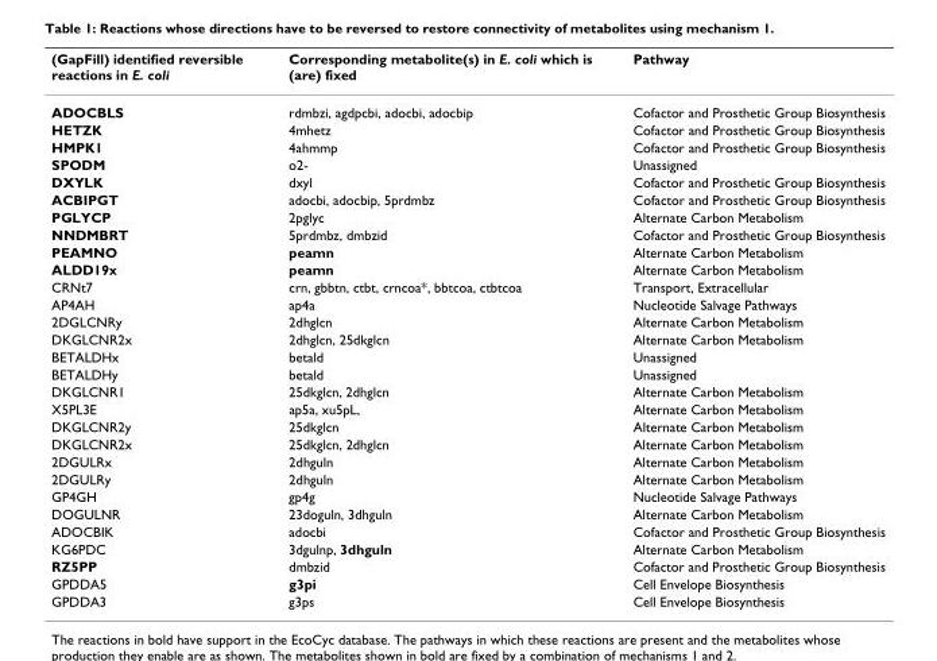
<table><thead><tr><td>(GapFill) identified reversible reactions in E. coli</td><td>Corresponding metabolite(s) in E. coli which is (are) fixed</td><td>Pathway</td></tr></thead><tbody><tr><td>ADOCBLS</td><td>rdmbzi, agdpcbi, adocbi, adocbip</td><td>Cofactor and Prosthetic Group Biosynthesis</td></tr><tr><td>HETZK</td><td>4mhetz</td><td>Cofactor and Prosthetic Group Biosynthesis</td></tr><tr><td>HMPK1</td><td>4ahmmp</td><td>Cofactor and Prosthetic Group Biosynthesis</td></tr><tr><td>SPODM</td><td>o2-</td><td>Unassigned</td></tr><tr><td>DXYLK</td><td>dxyl</td><td>Cofactor and Prosthetic Group Biosynthesis</td></tr><tr><td>ACBIPGT</td><td>adocbi, adocbip, 5prdmbz</td><td>Cofactor and Prosthetic Group Biosynthesis</td></tr><tr><td>PGLYCP</td><td>2pglyc</td><td>Alternate Carbon Metabolism</td></tr><tr><td>NNDMBRT</td><td>5prdmbz, dmbzid</td><td>Cofactor and Prosthetic Group Biosynthesis</td></tr><tr><td>PEAMNO</td><td>peamn</td><td>Alternate Carbon Metabolism</td></tr><tr><td>ALDD19x</td><td>peamn</td><td>Alternate Carbon Metabolism</td></tr><tr><td>CRNt7</td><td>crn, gbbtn, ctbt, crncoa*, bbtcoa, ctbtcoa</td><td>Transport, Extracellular</td></tr><tr><td>AP4AH</td><td>ap4a</td><td>Nucleotide Salvage Pathways</td></tr><tr><td>2DGLCNRy</td><td>2dhglcn</td><td>Alternate Carbon Metabolism</td></tr><tr><td>DKGLCNR2x</td><td>2dhglcn, 25dkglcn</td><td>Alternate Carbon Metabolism</td></tr><tr><td>BETALDHx</td><td>betald</td><td>Unassigned</td></tr><tr><td>BETALDHy</td><td>betald</td><td>Unassigned</td></tr><tr><td>DKGLCNR1</td><td>25dkglcn, 2dhglcn</td><td>Alternate Carbon Metabolism</td></tr><tr><td>X5PL3E</td><td>ap5a, xu5pL,</td><td>Alternate Carbon Metabolism</td></tr><tr><td>DKGLCNR2y</td><td>25dkglcn</td><td>Alternate Carbon Metabolism</td></tr><tr><td>DKGLCNR2x</td><td>25dkglcn, 2dhglcn</td><td>Alternate Carbon Metabolism</td></tr><tr><td>2DGULRx</td><td>2dhguln</td><td>Alternate Carbon Metabolism</td></tr><tr><td>2DGULRy</td><td>2dhguln</td><td>Alternate Carbon Metabolism</td></tr><tr><td>GP4GH</td><td>gp4g</td><td>Nucleotide Salvage Pathways</td></tr><tr><td>DOGULNR</td><td>23doguln, 3dhguln</td><td>Alternate Carbon Metabolism</td></tr><tr><td>ADOCBIK</td><td>adocbi</td><td>Cofactor and Prosthetic Group Biosynthesis</td></tr><tr><td>KG6PDC</td><td>3dgulnp, 3dhguln</td><td>Alternate Carbon Metabolism</td></tr><tr><td>RZ5PP</td><td>dmbzid</td><td>Cofactor and Prosthetic Group Biosynthesis</td></tr><tr><td>GPDDA5</td><td>g3pi</td><td>Cell Envelope Biosynthesis</td></tr><tr><td>GPDDA3</td><td>g3ps</td><td>Cell Envelope Biosynthesis</td></tr></tbody></table>